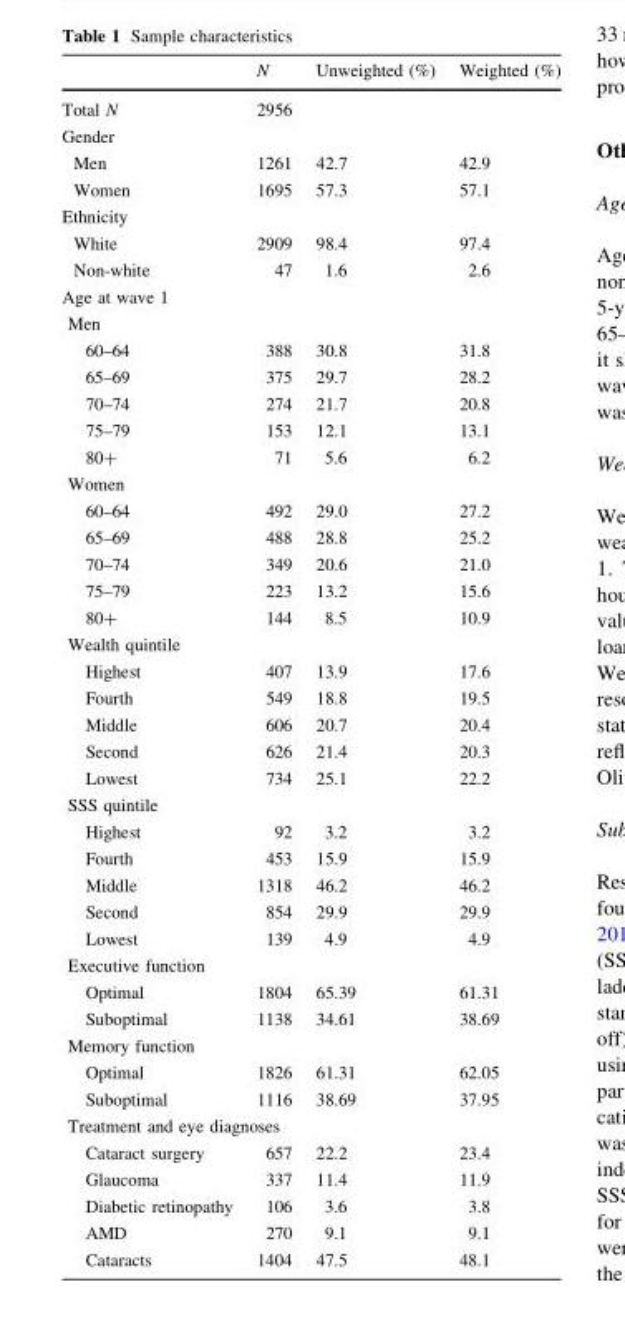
<table><thead><tr><td></td><td>N</td><td>Unweighted (%)</td><td>Weighted (%)</td></tr></thead><tbody><tr><td>Total N</td><td>2956</td><td></td><td></td></tr><tr><td colspan="4">Gender</td></tr><tr><td>Men</td><td>1261</td><td>42.7</td><td>42.9</td></tr><tr><td>Women</td><td>1695</td><td>57.3</td><td>57.1</td></tr><tr><td colspan="4">Ethnicity</td></tr><tr><td>White</td><td>2909</td><td>98.4</td><td>97.4</td></tr><tr><td>Non-white</td><td>47</td><td>1.6</td><td>2.6</td></tr><tr><td colspan="4">Age at wave 1</td></tr><tr><td colspan="4">Men</td></tr><tr><td>60–64</td><td>388</td><td>30.8</td><td>31.8</td></tr><tr><td>65–69</td><td>375</td><td>29.7</td><td>28.2</td></tr><tr><td>70–74</td><td>274</td><td>21.7</td><td>20.8</td></tr><tr><td>75–79</td><td>153</td><td>12.1</td><td>13.1</td></tr><tr><td>80+</td><td>71</td><td>5.6</td><td>6.2</td></tr><tr><td colspan="4">Women</td></tr><tr><td>60–64</td><td>492</td><td>29.0</td><td>27.2</td></tr><tr><td>65–69</td><td>488</td><td>28.8</td><td>25.2</td></tr><tr><td>70–74</td><td>349</td><td>20.6</td><td>21.0</td></tr><tr><td>75–79</td><td>223</td><td>13.2</td><td>15.6</td></tr><tr><td>80+</td><td>144</td><td>8.5</td><td>10.9</td></tr><tr><td colspan="4">Wealth quintile</td></tr><tr><td>Highest</td><td>407</td><td>13.9</td><td>17.6</td></tr><tr><td>Fourth</td><td>549</td><td>18.8</td><td>19.5</td></tr><tr><td>Middle</td><td>606</td><td>20.7</td><td>20.4</td></tr><tr><td>Second</td><td>626</td><td>21.4</td><td>20.3</td></tr><tr><td>Lowest</td><td>734</td><td>25.1</td><td>22.2</td></tr><tr><td colspan="4">SSS quintile</td></tr><tr><td>Highest</td><td>92</td><td>3.2</td><td>3.2</td></tr><tr><td>Fourth</td><td>453</td><td>15.9</td><td>15.9</td></tr><tr><td>Middle</td><td>1318</td><td>46.2</td><td>46.2</td></tr><tr><td>Second</td><td>854</td><td>29.9</td><td>29.9</td></tr><tr><td>Lowest</td><td>139</td><td>4.9</td><td>4.9</td></tr><tr><td colspan="4">Executive function</td></tr><tr><td>Optimal</td><td>1804</td><td>65.39</td><td>61.31</td></tr><tr><td>Suboptimal</td><td>1138</td><td>34.61</td><td>38.69</td></tr><tr><td colspan="4">Memory function</td></tr><tr><td>Optimal</td><td>1826</td><td>61.31</td><td>62.05</td></tr><tr><td>Suboptimal</td><td>1116</td><td>38.69</td><td>37.95</td></tr><tr><td colspan="4">Treatment and eye diagnoses</td></tr><tr><td>Cataract surgery</td><td>657</td><td>22.2</td><td>23.4</td></tr><tr><td>Glaucoma</td><td>337</td><td>11.4</td><td>11.9</td></tr><tr><td>Diabetic retinopathy</td><td>106</td><td>3.6</td><td>3.8</td></tr><tr><td>AMD</td><td>270</td><td>9.1</td><td>9.1</td></tr><tr><td>Cataracts</td><td>1404</td><td>47.5</td><td>48.1</td></tr></tbody></table>